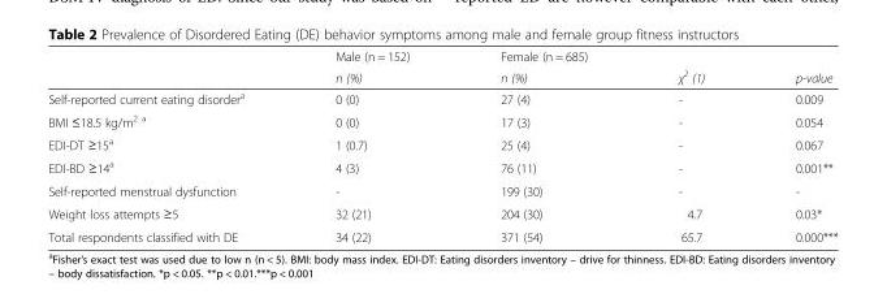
<table><thead><tr><td rowspan="2"></td><td rowspan="2">Male (n = 152) n (%)</td><td rowspan="2">Female (n = 685) n (%)</td><td rowspan="2">χ<sup>2</sup> (1)</td><td rowspan="2">p-value</td></tr><tr></tr></thead><tbody><tr><td>Self-reported current eating disorder<sup>a</sup></td><td>0 (0)</td><td>27 (4)</td><td>-</td><td>0.009</td></tr><tr><td>BMI ≤18.5 kg/m<sup>2 a</sup></td><td>0 (0)</td><td>17 (3)</td><td>-</td><td>0.054</td></tr><tr><td>EDI-DT ≥15<sup>a</sup></td><td>1 (0.7)</td><td>25 (4)</td><td>-</td><td>0.067</td></tr><tr><td>EDI-BD ≥14<sup>a</sup></td><td>4 (3)</td><td>76 (11)</td><td>-</td><td>0.001**</td></tr><tr><td>Self-reported menstrual dysfunction</td><td>-</td><td>199 (30)</td><td>-</td><td>-</td></tr><tr><td>Weight loss attempts ≥5</td><td>32 (21)</td><td>204 (30)</td><td>4.7</td><td>0.03*</td></tr><tr><td>Total respondents classified with DE</td><td>34 (22)</td><td>371 (54)</td><td>65.7</td><td>0.000***</td></tr></tbody></table>